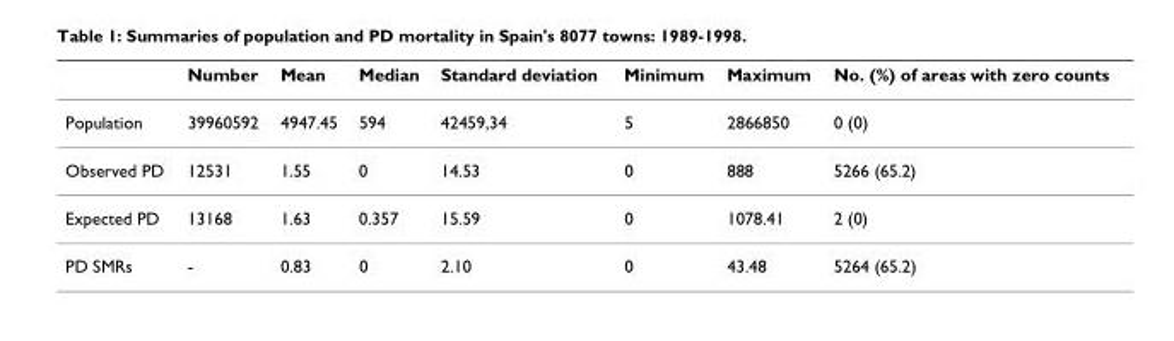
<table><thead><tr><td></td><td>Number</td><td>Mean</td><td>Median</td><td>Standard deviation</td><td>Minimum</td><td>Maximum</td><td>No. (%) of areas with zero counts</td></tr></thead><tbody><tr><td>Population</td><td>39960592</td><td>4947.45</td><td>594</td><td>42459,34</td><td>5</td><td>2866850</td><td>0 (0)</td></tr><tr><td>Observed PD</td><td>12531</td><td>1.55</td><td>0</td><td>14.53</td><td>0</td><td>888</td><td>5266 (65.2)</td></tr><tr><td>Expected PD</td><td>13168</td><td>1.63</td><td>0.357</td><td>15.59</td><td>0</td><td>1078.41</td><td>2 (0)</td></tr><tr><td>PD SMRs</td><td>-</td><td>0.83</td><td>0</td><td>2.10</td><td>0</td><td>43.48</td><td>5264 (65.2)</td></tr></tbody></table>